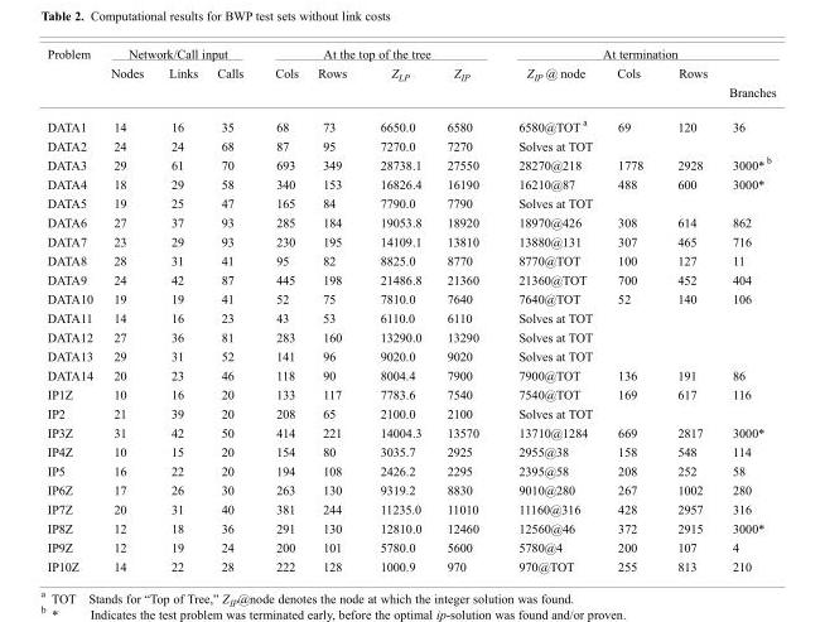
<table><thead><tr><td rowspan="2">Problem</td><td colspan="3">Network/Call input</td><td colspan="4">At the top of the tree</td><td colspan="4">At termination</td></tr><tr><td>Nodes</td><td>Links</td><td>Calls</td><td>Cols</td><td>Rows</td><td>Z<sub>LP</sub></td><td>Z<sub>IP</sub></td><td>Z<sub>IP</sub> @ node</td><td>Cols</td><td>Rows</td><td>Branches</td></tr></thead><tbody><tr><td>DATA1</td><td>14</td><td>16</td><td>35</td><td>68</td><td>73</td><td>6650.0</td><td>6580</td><td>6580@TOT <sup>a</sup></td><td>69</td><td>120</td><td>36</td></tr><tr><td>DATA2</td><td>24</td><td>24</td><td>68</td><td>87</td><td>95</td><td>7270.0</td><td>7270</td><td>Solves at TOT</td><td></td><td></td><td></td></tr><tr><td>DATA3</td><td>29</td><td>61</td><td>70</td><td>693</td><td>349</td><td>28738.1</td><td>27550</td><td>28270@218</td><td>1778</td><td>2928</td><td>3000* b</td></tr><tr><td>DATA4</td><td>18</td><td>29</td><td>58</td><td>340</td><td>153</td><td>16826.4</td><td>16190</td><td>16210@87</td><td>488</td><td>600</td><td>3000*</td></tr><tr><td>DATA5</td><td>19</td><td>25</td><td>47</td><td>165</td><td>84</td><td>7790.0</td><td>7790</td><td>Solves at TOT</td><td></td><td></td><td></td></tr><tr><td>DATA6</td><td>27</td><td>37</td><td>93</td><td>285</td><td>184</td><td>19053.8</td><td>18920</td><td>18970@426</td><td>308</td><td>614</td><td>862</td></tr><tr><td>DATA7</td><td>23</td><td>29</td><td>93</td><td>230</td><td>195</td><td>14109.1</td><td>13810</td><td>13880@131</td><td>307</td><td>465</td><td>716</td></tr><tr><td>DATA8</td><td>28</td><td>31</td><td>41</td><td>95</td><td>82</td><td>8825.0</td><td>8770</td><td>8770@TOT</td><td>100</td><td>127</td><td>11</td></tr><tr><td>DATA9</td><td>24</td><td>42</td><td>87</td><td>445</td><td>198</td><td>21486.8</td><td>21360</td><td>21360@TOT</td><td>700</td><td>452</td><td>404</td></tr><tr><td>DATA10</td><td>19</td><td>19</td><td>41</td><td>52</td><td>75</td><td>7810.0</td><td>7640</td><td>7640@TOT</td><td>52</td><td>140</td><td>106</td></tr><tr><td>DATA11</td><td>14</td><td>16</td><td>23</td><td>43</td><td>53</td><td>6110.0</td><td>6110</td><td>Solves at TOT</td><td></td><td></td><td></td></tr><tr><td>DATA12</td><td>27</td><td>36</td><td>81</td><td>283</td><td>160</td><td>13290.0</td><td>13290</td><td>Solves at TOT</td><td></td><td></td><td></td></tr><tr><td>DATA13</td><td>29</td><td>31</td><td>52</td><td>141</td><td>96</td><td>9020.0</td><td>9020</td><td>Solves at TOT</td><td></td><td></td><td></td></tr><tr><td>DATA14</td><td>20</td><td>23</td><td>46</td><td>118</td><td>90</td><td>8004.4</td><td>7900</td><td>7900@TOT</td><td>136</td><td>191</td><td>86</td></tr><tr><td>IP1Z</td><td>10</td><td>16</td><td>20</td><td>133</td><td>117</td><td>7783.6</td><td>7540</td><td>7540@TOT</td><td>169</td><td>617</td><td>116</td></tr><tr><td>IP2</td><td>21</td><td>39</td><td>20</td><td>208</td><td>65</td><td>2100.0</td><td>2100</td><td>Solves at TOT</td><td></td><td></td><td></td></tr><tr><td>IP3Z</td><td>31</td><td>42</td><td>50</td><td>414</td><td>221</td><td>14004.3</td><td>13570</td><td>13710@1284</td><td>669</td><td>2817</td><td>3000*</td></tr><tr><td>IP4Z</td><td>10</td><td>15</td><td>20</td><td>154</td><td>80</td><td>3035.7</td><td>2925</td><td>2955@38</td><td>158</td><td>548</td><td>114</td></tr><tr><td>IP5</td><td>16</td><td>22</td><td>20</td><td>194</td><td>108</td><td>2426.2</td><td>2295</td><td>2395@58</td><td>208</td><td>252</td><td>58</td></tr><tr><td>IP6Z</td><td>17</td><td>26</td><td>30</td><td>263</td><td>130</td><td>9319.2</td><td>8830</td><td>9010@280</td><td>267</td><td>1002</td><td>280</td></tr><tr><td>IP7Z</td><td>20</td><td>31</td><td>40</td><td>381</td><td>244</td><td>11235.0</td><td>11010</td><td>11160@316</td><td>428</td><td>2957</td><td>316</td></tr><tr><td>IP8Z</td><td>12</td><td>18</td><td>36</td><td>291</td><td>130</td><td>12810.0</td><td>12460</td><td>12560@46</td><td>372</td><td>2915</td><td>3000*</td></tr><tr><td>IP9Z</td><td>12</td><td>19</td><td>24</td><td>200</td><td>101</td><td>5780.0</td><td>5600</td><td>5780@4</td><td>200</td><td>107</td><td>4</td></tr><tr><td>IP10Z</td><td>14</td><td>22</td><td>28</td><td>222</td><td>128</td><td>1000.9</td><td>970</td><td>970@TOT</td><td>255</td><td>813</td><td>210</td></tr></tbody></table>